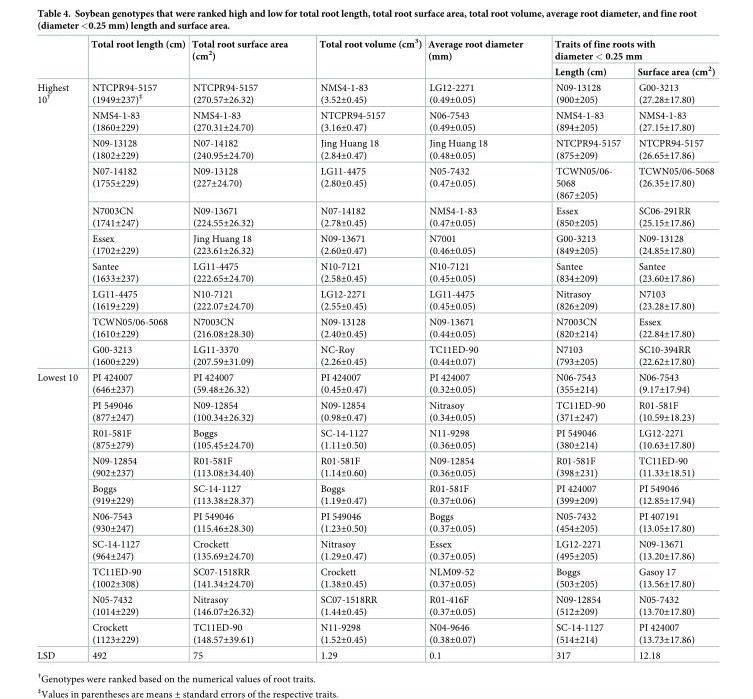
<table><thead><tr><td rowspan="2"></td><td rowspan="2">Total root length (cm)</td><td rowspan="2">Total root surface area (cm<sup>2</sup>)</td><td rowspan="2">Total root volume (cm<sup>3</sup>)</td><td rowspan="2">Average root diameter (mm)</td><td colspan="2">Traits of fine roots with diameter &lt; 0.25 mm</td></tr><tr><td>Length (cm)</td><td>Surface area (cm<sup>2</sup>)</td></tr></thead><tbody><tr><td rowspan="10">Highest 10<sup>†</sup></td><td>NTCPR94-5157 (1949±237)<sup>‡</sup></td><td>NTCPR94-5157 (270.57±26.32)</td><td>NMS4-1-83 (3.52±0.45)</td><td>LG12-2271 (0.49±0.05)</td><td>N09-13128 (900±205)</td><td>G00-3213 (27.28±17.80)</td></tr><tr><td>NMS4-1-83 (1860±229)</td><td>NMS4-1-83 (270.31±24.70)</td><td>NTCPR94-5157 (3.16±0.47)</td><td>N06-7543 (0.49±0.05)</td><td>NMS4-1-83 (894±205)</td><td>NMS4-1-83 (27.15±17.80)</td></tr><tr><td>N09-13128 (1802±229)</td><td>N07-14182 (240.95±24.70)</td><td>Jing Huang 18 (2.84±0.47)</td><td>Jing Huang 18 (0.48±0.05)</td><td>NTCPR94-5157 (875±209)</td><td>NTCPR94-5157 (26.65±17.86)</td></tr><tr><td>N07-14182 (1755±229)</td><td>N09-13128 (227±24.70)</td><td>LG11-4475 (2.80±0.45)</td><td>N05-7432 (0.47±0.05)</td><td>TCWN05/06- 5068 (867±205)</td><td>TCWN05/06-5068 (26.35±17.80)</td></tr><tr><td>N7003CN (1741±247)</td><td>N09-13671 (224.55±26.32)</td><td>N07-14182 (2.78±0.45)</td><td>NMS4-1-83 (0.47±0.05)</td><td>Essex (850±205)</td><td>SC06-291RR (25.15±17.86)</td></tr><tr><td>Essex (1702±229)</td><td>Jing Huang 18 (223.61±26.32)</td><td>N09-13671 (2.60±0.47)</td><td>N7001 (0.46±0.05)</td><td>G00-3213 (849±205)</td><td>N09-13128 (24.85±17.80)</td></tr><tr><td>Santee (1633±237)</td><td>LG11-4475 (222.65±24.70)</td><td>N10-7121 (2.58±0.45)</td><td>N10-7121 (0.45±0.05)</td><td>Santee (834±209)</td><td>Santee (23.60±17.86)</td></tr><tr><td>LG11-4475 (1619±229)</td><td>N10-7121 (222.07±24.70)</td><td>LG12-2271 (2.55±0.45)</td><td>LG11-4475 (0.45±0.05)</td><td>Nitrasoy (826±209)</td><td>N7103 (23.28±17.80)</td></tr><tr><td>TCWN05/06-5068 (1610±229)</td><td>N7003CN (216.08±28.30)</td><td>N09-13128 (2.40±0.45)</td><td>N09-13671 (0.44±0.05)</td><td>N7003CN (820±214)</td><td>Essex (22.84±17.80)</td></tr><tr><td>G00-3213 (1600±229)</td><td>LG11-3370 (207.59±31.09)</td><td>NC-Roy (2.26±0.45)</td><td>TC11ED-90 (0.44±0.07)</td><td>N7103 (793±205)</td><td>SC10-394RR (22.62±17.80)</td></tr><tr><td rowspan="10">Lowest 10</td><td>PI 424007 (646±237)</td><td>PI 424007 (59.48±26.32)</td><td>PI 424007 (0.45±0.47)</td><td>PI 424007 (0.32±0.05)</td><td>N06-7543 (355±214)</td><td>N06-7543 (9.17±17.94)</td></tr><tr><td>PI 549046 (877±247)</td><td>N09-12854 (100.34±26.32)</td><td>N09-12854 (0.98±0.47)</td><td>Nitrasoy (0.34±0.05)</td><td>TC11ED-90 (371±247)</td><td>R01-581F (10.59±18.23)</td></tr><tr><td>R01-581F (875±279)</td><td>Boggs (105.45±24.70)</td><td>SC-14-1127 (1.11±0.50)</td><td>N11-9298 (0.36±0.05)</td><td>PI 549046 (380±214)</td><td>LG12-2271 (10.63±17.80)</td></tr><tr><td>N09-12854 (902±237)</td><td>R01-581F (113.08±34.40)</td><td>R01-581F (1.14±0.60)</td><td>N09-12854 (0.36±0.05)</td><td>R01-581F (398±231)</td><td>TC11ED-90 (11.33±18.51)</td></tr><tr><td>Boggs (919±229)</td><td>SC-14-1127 (113.38±28.37)</td><td>Boggs (1.19±0.47)</td><td>R01-581F (0.37±0.06)</td><td>PI 424007 (399±209)</td><td>PI 549046 (12.85±17.94)</td></tr><tr><td>N06-7543 (930±247)</td><td>PI 549046 (115.46±28.30)</td><td>PI 549046 (1.23±0.50)</td><td>Boggs (0.37±0.05)</td><td>N05-7432 (454±205)</td><td>PI 407191 (13.05±17.80)</td></tr><tr><td>SC-14-1127 (964±247)</td><td>Crockett (135.69±24.70)</td><td>Nitrasoy (1.29±0.47)</td><td>Essex (0.37±0.05)</td><td>LG12-2271 (495±205)</td><td>N09-13671 (13.20±17.86)</td></tr><tr><td>TC11ED-90 (1002±308)</td><td>SC07-1518RR (141.34±24.70)</td><td>Crockett (1.38±0.45)</td><td>NLM09-52 (0.37±0.05)</td><td>Boggs (503±205)</td><td>Gasoy 17 (13.56±17.80)</td></tr><tr><td>N05-7432 (1014±229)</td><td>Nitrasoy (146.07±26.32)</td><td>SC07-1518RR (1.44±0.45)</td><td>R01-416F (0.37±0.05)</td><td>N09-12854 (512±209)</td><td>N05-7432 (13.70±17.80)</td></tr><tr><td>Crockett (1123±229)</td><td>TC11ED-90 (148.57±39.61)</td><td>N11-9298 (1.52±0.45)</td><td>N04-9646 (0.38±0.07)</td><td>SC-14-1127 (514±214)</td><td>PI 424007 (13.73±17.86)</td></tr><tr><td>LSD</td><td>492</td><td>75</td><td>1.29</td><td>0.1</td><td>317</td><td>12.18</td></tr></tbody></table>